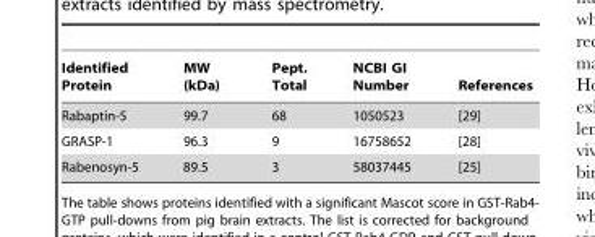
<table><thead><tr><td>Identified Protein</td><td>MW (kDa)</td><td>Pept. Total</td><td>NCBI GI Number</td><td>References</td></tr></thead><tbody><tr><td>Rabaptin-5</td><td>99.7</td><td>68</td><td>1050523</td><td>[29]</td></tr><tr><td>GRASP-1</td><td>96.3</td><td>9</td><td>16758652</td><td>[28]</td></tr><tr><td>Rabenosyn-5</td><td>89.5</td><td>3</td><td>58037445</td><td>[25]</td></tr></tbody></table>